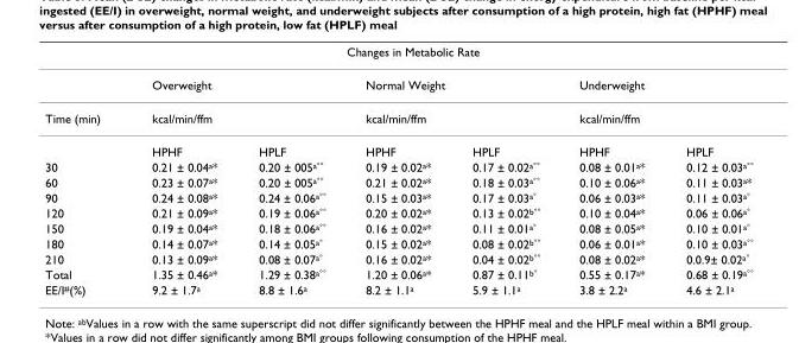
<table><thead><tr><td colspan="7">Changes in Metabolic Rate</td></tr><tr><td rowspan="2">Time (min)</td><td colspan="2">Overweight</td><td colspan="2">Normal Weight</td><td colspan="2">Underweight</td></tr><tr><td>kcal/min/ffm</td><td></td><td>kcal/min/ffm</td><td></td><td>kcal/min/ffm</td><td></td></tr></thead><tbody><tr><td></td><td>HPHF</td><td>HPLF</td><td>HPHF</td><td>HPLF</td><td>HPHF</td><td>HPLF</td></tr><tr><td>30</td><td>0.21 ± 0.04<sup>a</sup>*</td><td>0.20 ± 005<sup>a°°</sup></td><td>0.19 ± 0.02<sup>a</sup>*</td><td>0.17 ± 0.02<sup>a°°</sup></td><td>0.08 ± 0.01<sup>a</sup>*</td><td>0.12 ± 0.03<sup>a°°</sup></td></tr><tr><td>60</td><td>0.23 ± 0.07<sup>a</sup>*</td><td>0.20 ± 005<sup>a°°</sup></td><td>0.21 ± 0.02<sup>a</sup>*</td><td>0.18 ± 0.03<sup>a°°</sup></td><td>0.10 ± 0.06<sup>a</sup>*</td><td>0.11 ± 0.03<sup>a</sup>*</td></tr><tr><td>90</td><td>0.24 ± 0.08<sup>a</sup>*</td><td>0.24 ± 0.06<sup>a°°</sup></td><td>0.15 ± 0.03<sup>a</sup>*</td><td>0.17 ± 0.03<sup>a°</sup></td><td>0.06 ± 0.03<sup>a</sup>*</td><td>0.11 ± 0.03<sup>a°</sup></td></tr><tr><td>120</td><td>0.21 ± 0.09<sup>a</sup>*</td><td>0.19 ± 0.06<sup>a°°</sup></td><td>0.20 ± 0.02<sup>a</sup>*</td><td>0.13 ± 0.02<sup>b°°</sup></td><td>0.10 ± 0.04<sup>a</sup>*</td><td>0.06 ± 0.06<sup>a°</sup></td></tr><tr><td>150</td><td>0.19 ± 0.04<sup>a</sup>*</td><td>0.18 ± 0.06<sup>a°°</sup></td><td>0.16 ± 0.02<sup>a</sup>*</td><td>0.11 ± 0.01<sup>a°</sup></td><td>0.08 ± 0.05<sup>a</sup>*</td><td>0.10 ± 0.01<sup>a°</sup></td></tr><tr><td>180</td><td>0.14 ± 0.07<sup>a</sup>*</td><td>0.14 ± 0.05<sup>a°</sup></td><td>0.15 ± 0.02<sup>a</sup>*</td><td>0.08 ± 0.02<sup>b°°</sup></td><td>0.06 ± 0.01<sup>a</sup>*</td><td>0.10 ± 0.03<sup>a°°</sup></td></tr><tr><td>210</td><td>0.13 ± 0.09<sup>a</sup>*</td><td>0.08 ± 0.07<sup>a°</sup></td><td>0.16 ± 0.02<sup>a</sup>*</td><td>0.04 ± 0.02<sup>b°°</sup></td><td>0.08 ± 0.02<sup>a</sup>*</td><td>0.0.9± 0.02<sup>a°</sup></td></tr><tr><td>Total</td><td>1.35 ± 0.46<sup>a</sup>*</td><td>1.29 ± 0.38<sup>a°°</sup></td><td>1.20 ± 0.06<sup>a</sup>*</td><td>0.87 ± 0.11<sup>b°</sup></td><td>0.55 ± 0.17<sup>a</sup>*</td><td>0.68 ± 0.19<sup>a°°</sup></td></tr><tr><td>EE/I<sup>#</sup>(%)</td><td>9.2 ± 1.7<sup>a</sup></td><td>8.8 ± 1.6<sup>a</sup></td><td>8.2 ± 1.1<sup>a</sup></td><td>5.9 ± 1.1<sup>a</sup></td><td>3.8 ± 2.2<sup>a</sup></td><td>4.6 ± 2.1<sup>a</sup></td></tr></tbody></table>